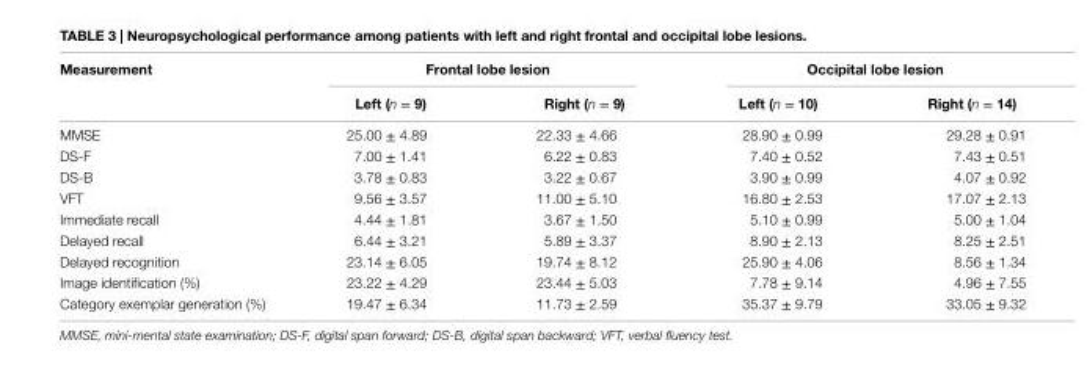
<table><thead><tr><td rowspan="2">Measurement</td><td colspan="2">Frontal lobe lesion</td><td colspan="2">Occipital lobe lesion</td></tr><tr><td>left (n = 9)</td><td>right (n = 9)</td><td>left (n = 10)</td><td>right (n = 14)</td></tr></thead><tbody><tr><td>MMSE</td><td>25.00 ± 4.89</td><td>22.33 ± 4.66</td><td>28.90 ± 0.99</td><td>29.28 ± 0.91</td></tr><tr><td>DS-F</td><td>7.00 ± 1.41</td><td>6.22 ± 0.83</td><td>7.40 ± 0.52</td><td>7.43 ± 0.51</td></tr><tr><td>DS-B</td><td>3.78 ± 0.83</td><td>3.22 ± 0.67</td><td>3.90 ± 0.99</td><td>4.07 ± 0.92</td></tr><tr><td>VFT</td><td>9.56 ± 3.57</td><td>11.00 ± 5.10</td><td>16.80 ± 2.53</td><td>17.07 ± 2.13</td></tr><tr><td>Immediate recall</td><td>4.44 ± 1.81</td><td>3.67 ± 1.50</td><td>5.10 ± 0.99</td><td>5.00 ± 1.04</td></tr><tr><td>Delayed recall</td><td>6.44 ± 3.21</td><td>5.89 ± 3.37</td><td>8.90 ± 2.13</td><td>8.25 ± 2.51</td></tr><tr><td>Delayed recognition</td><td>23.14 ± 6.05</td><td>19.74 ± 8.12</td><td>25.90 ± 4.06</td><td>8.56 ± 1.34</td></tr><tr><td>Image identification (%)</td><td>23.22 ± 4.29</td><td>23.44 ± 5.03</td><td>7.78 ± 9.14</td><td>4.96 ± 7.55</td></tr><tr><td>Category exemplar generation (%)</td><td>19.47 ± 6.34</td><td>11.73 ± 2.59</td><td>35.37 ± 9.79</td><td>33.05 ± 9.32</td></tr></tbody></table>